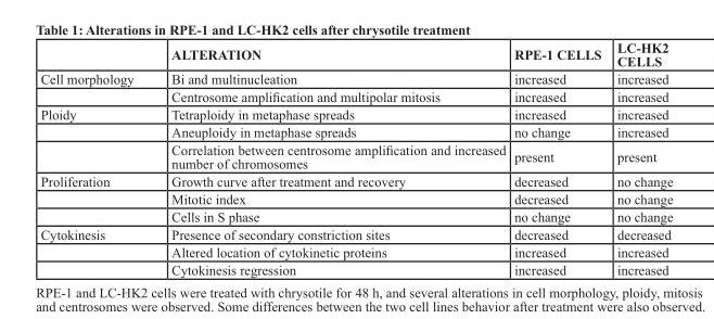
<table><thead><tr><td></td><td>ALTERATION</td><td>RPE-1 CELLS</td><td>LC-HK2 CELLS</td></tr></thead><tbody><tr><td rowspan="2">Cell morphology</td><td>Bi and multinucleation</td><td>increased</td><td>increased</td></tr><tr><td>Centrosome amplification and multipolar mitosis</td><td>increased</td><td>increased</td></tr><tr><td rowspan="3">Ploidy</td><td>Tetraploidy in metaphase spreads</td><td>increased</td><td>increased</td></tr><tr><td>Aneuploidy in metaphase spreads</td><td>no change</td><td>increased</td></tr><tr><td>Correlation between centrosome amplification and increased number of chromosomes</td><td>present</td><td>present</td></tr><tr><td rowspan="3">Proliferation</td><td>Growth curve after treatment and recovery</td><td>decreased</td><td>no change</td></tr><tr><td>Mitotic index</td><td>decreased</td><td>no change</td></tr><tr><td>Cells in S phase</td><td>no change</td><td>no change</td></tr><tr><td rowspan="3">Cytokinesis</td><td>Presence of secondary constriction sites</td><td>decreased</td><td>decreased</td></tr><tr><td>Altered location of cytokinetic proteins</td><td>increased</td><td>increased</td></tr><tr><td>Cytokinesis regression</td><td>increased</td><td>increased</td></tr></tbody></table>